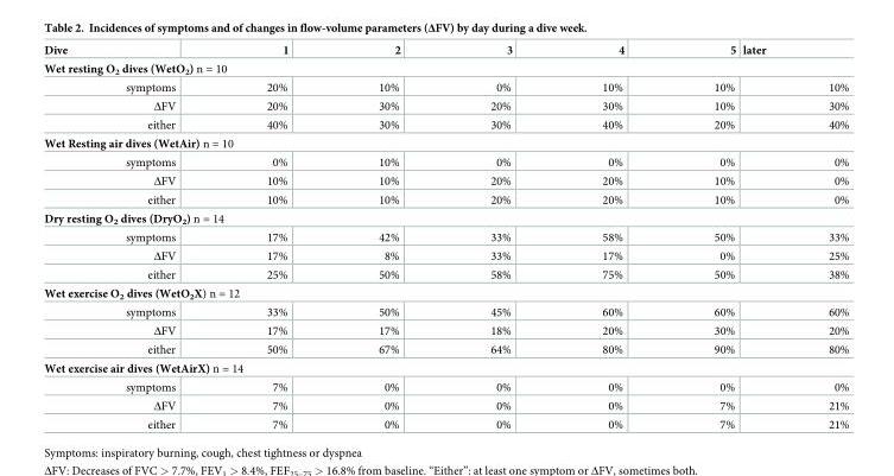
<table><thead><tr><td>Dive</td><td>1</td><td>2</td><td>3</td><td>4</td><td>5</td><td>later</td></tr></thead><tbody><tr><td colspan="7">Wet resting O<sub>2</sub> dives (WetO<sub>2</sub>) n = 10</td></tr><tr><td>symptoms</td><td>20%</td><td>10%</td><td>0%</td><td>10%</td><td>10%</td><td>10%</td></tr><tr><td>ΔFV</td><td>20%</td><td>30%</td><td>20%</td><td>30%</td><td>10%</td><td>30%</td></tr><tr><td>either</td><td>40%</td><td>30%</td><td>30%</td><td>40%</td><td>20%</td><td>40%</td></tr><tr><td colspan="7">Wet Resting air dives (WetAir) n = 10</td></tr><tr><td>symptoms</td><td>0%</td><td>10%</td><td>0%</td><td>0%</td><td>0%</td><td>0%</td></tr><tr><td>ΔFV</td><td>10%</td><td>10%</td><td>20%</td><td>20%</td><td>10%</td><td>0%</td></tr><tr><td>either</td><td>10%</td><td>10%</td><td>20%</td><td>20%</td><td>10%</td><td>0%</td></tr><tr><td colspan="7">Dry resting O<sub>2</sub> dives (DryO<sub>2</sub>) n = 14</td></tr><tr><td>symptoms</td><td>17%</td><td>42%</td><td>33%</td><td>58%</td><td>50%</td><td>33%</td></tr><tr><td>ΔFV</td><td>17%</td><td>8%</td><td>33%</td><td>17%</td><td>0%</td><td>25%</td></tr><tr><td>either</td><td>25%</td><td>50%</td><td>58%</td><td>75%</td><td>50%</td><td>38%</td></tr><tr><td colspan="7">Wet exercise O<sub>2</sub> dives (WetO<sub>2</sub>X) n = 12</td></tr><tr><td>symptoms</td><td>33%</td><td>50%</td><td>45%</td><td>60%</td><td>60%</td><td>60%</td></tr><tr><td>ΔFV</td><td>17%</td><td>17%</td><td>18%</td><td>20%</td><td>30%</td><td>20%</td></tr><tr><td>either</td><td>50%</td><td>67%</td><td>64%</td><td>80%</td><td>90%</td><td>80%</td></tr><tr><td colspan="7">Wet exercise air dives (WetAirX) n = 14</td></tr><tr><td>symptoms</td><td>7%</td><td>0%</td><td>0%</td><td>0%</td><td>0%</td><td>0%</td></tr><tr><td>ΔFV</td><td>7%</td><td>0%</td><td>0%</td><td>0%</td><td>7%</td><td>21%</td></tr><tr><td>either</td><td>7%</td><td>0%</td><td>0%</td><td>0%</td><td>7%</td><td>21%</td></tr></tbody></table>